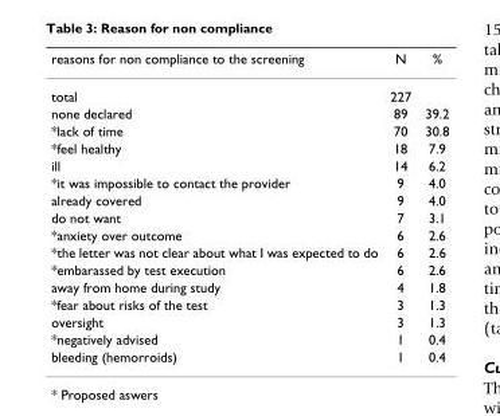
<table><thead><tr><td>reasons for non compliance to the screening</td><td>N</td><td>%</td></tr></thead><tbody><tr><td>total</td><td>227</td><td></td></tr><tr><td>none declared</td><td>89</td><td>39.2</td></tr><tr><td>*lack of time</td><td>70</td><td>30.8</td></tr><tr><td>*feel healthy</td><td>18</td><td>7.9</td></tr><tr><td>ill</td><td>14</td><td>6.2</td></tr><tr><td>*it was impossible to contact the provider</td><td>9</td><td>4.0</td></tr><tr><td>already covered</td><td>9</td><td>4.0</td></tr><tr><td>do not want</td><td>7</td><td>3.1</td></tr><tr><td>*anxiety over outcome</td><td>6</td><td>2.6</td></tr><tr><td>*the letter was not clear about what I was expected to do</td><td>6</td><td>2.6</td></tr><tr><td>*embarassed by test execution</td><td>6</td><td>2.6</td></tr><tr><td>away from home during study</td><td>4</td><td>1.8</td></tr><tr><td>*fear about risks of the test</td><td>3</td><td>1.3</td></tr><tr><td>oversight</td><td>3</td><td>1.3</td></tr><tr><td>*negatively advised</td><td>1</td><td>0.4</td></tr><tr><td>bleeding (hemorroids)</td><td>1</td><td>0.4</td></tr></tbody></table>